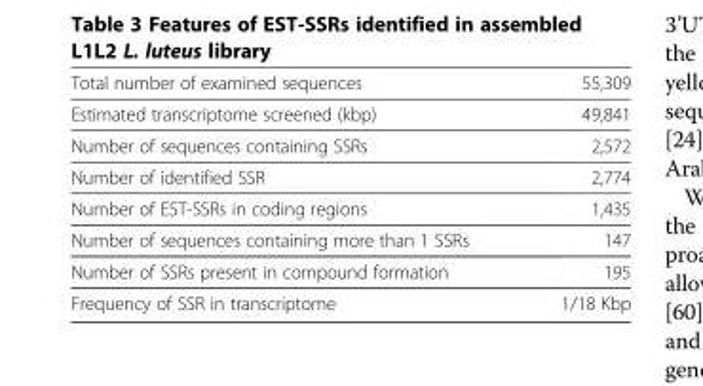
<table><tbody><tr><td>Total number of examined sequences</td><td>55,309</td></tr><tr><td>Estimated transcriptome screened (kbp)</td><td>49,841</td></tr><tr><td>Number of sequences containing SSRs</td><td>2,572</td></tr><tr><td>Number of identified SSR</td><td>2,774</td></tr><tr><td>Number of EST-SSRs in coding regions</td><td>1,435</td></tr><tr><td>Number of sequences containing more than 1 SSRs</td><td>147</td></tr><tr><td>Number of SSRs present in compound formation</td><td>195</td></tr><tr><td>Frequency of SSR in transcriptome</td><td>1/18 Kbp</td></tr></tbody></table>